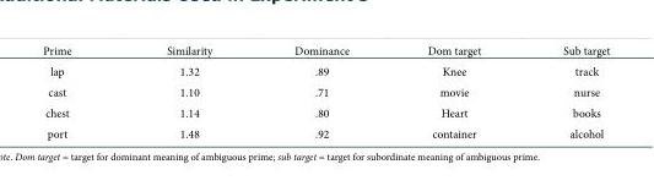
<table><thead><tr><td>Prime</td><td>Similarity</td><td>Dominance</td><td>Dom target</td><td>Sub target</td></tr></thead><tbody><tr><td>lap</td><td>1.32</td><td>.89</td><td>Knee</td><td>track</td></tr><tr><td>cast</td><td>1.10</td><td>.71</td><td>movie</td><td>nurse</td></tr><tr><td>chest</td><td>1.14</td><td>.80</td><td>Heart</td><td>books</td></tr><tr><td>port</td><td>1.48</td><td>.92</td><td>container</td><td>alcohol</td></tr></tbody></table>